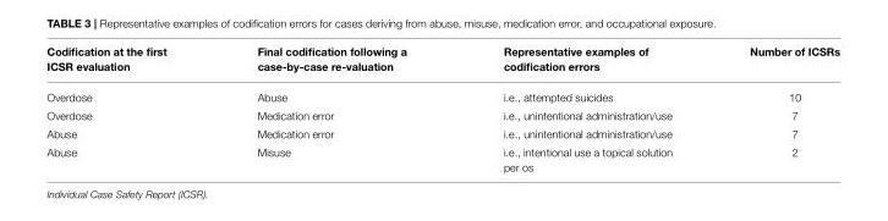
<table><thead><tr><td>Codification at the first ICSR evaluation</td><td>Final codification following a case-by-case re-valuation</td><td>Representative examples of codification errors</td><td>Number of ICSRs</td></tr></thead><tbody><tr><td>Overdose</td><td>Abuse</td><td>i.e., attempted suicides</td><td>10</td></tr><tr><td>Overdose</td><td>Medication error</td><td>i.e., unintentional administration/use</td><td>7</td></tr><tr><td>Abuse</td><td>Medication error</td><td>i.e., unintentional administration/use</td><td>7</td></tr><tr><td>Abuse</td><td>Misuse</td><td>i.e., intentional use a topical solution per os</td><td>2</td></tr></tbody></table>